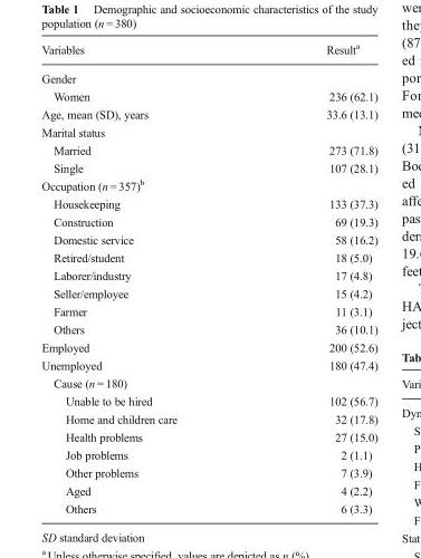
<table><thead><tr><td>Variables</td><td>Result<sup>a</sup></td></tr></thead><tbody><tr><td colspan="2">Gender</td></tr><tr><td>Women</td><td>236 (62.1)</td></tr><tr><td>Age, mean (SD), years</td><td>33.6 (13.1)</td></tr><tr><td colspan="2">Marital status</td></tr><tr><td>Married</td><td>273 (71.8)</td></tr><tr><td>Single</td><td>107 (28.1)</td></tr><tr><td colspan="2">Occupation (n = 357)<sup>b</sup></td></tr><tr><td>Housekeeping</td><td>133 (37.3)</td></tr><tr><td>Construction</td><td>69 (19.3)</td></tr><tr><td>Domestic service</td><td>58 (16.2)</td></tr><tr><td>Retired/student</td><td>18 (5.0)</td></tr><tr><td>Laborer/industry</td><td>17 (4.8)</td></tr><tr><td>Seller/employee</td><td>15 (4.2)</td></tr><tr><td>Farmer</td><td>11 (3.1)</td></tr><tr><td>Others</td><td>36 (10.1)</td></tr><tr><td>Employed</td><td>200 (52.6)</td></tr><tr><td>Unemployed</td><td>180 (47.4)</td></tr><tr><td colspan="2">Cause (n = 180)</td></tr><tr><td>Unable to be hired</td><td>102 (56.7)</td></tr><tr><td>Home and children care</td><td>32 (17.8)</td></tr><tr><td>Health problems</td><td>27 (15.0)</td></tr><tr><td>Job problems</td><td>2 (1.1)</td></tr><tr><td>Other problems</td><td>7 (3.9)</td></tr><tr><td>Aged</td><td>4 (2.2)</td></tr><tr><td>Others</td><td>6 (3.3)</td></tr></tbody></table>